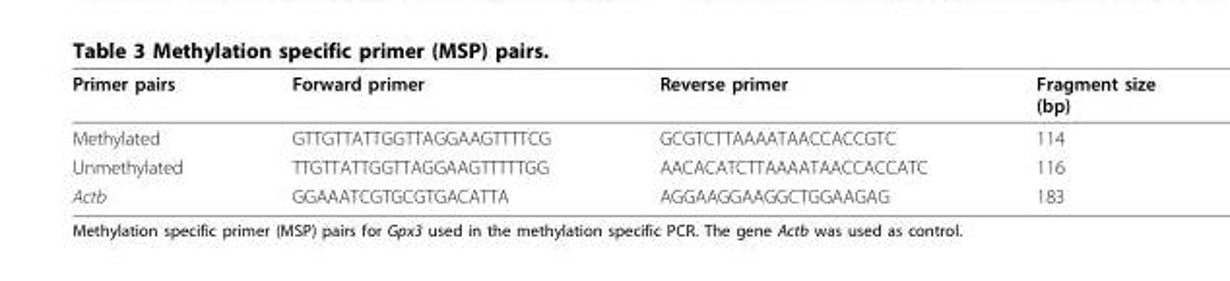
<table><thead><tr><td>Primer pairs</td><td>Forward primer</td><td>Reverse primer</td><td>Fragment size (bp)</td></tr></thead><tbody><tr><td>Methylated</td><td>GTTGTTATTGGTTAGGAAGTTTTCG</td><td>GCGTCTTAAAATAACCACCGTC</td><td>114</td></tr><tr><td>Unmethylated</td><td>TTGTTATTGGTTAGGAAGTTTTTGG</td><td>AACACATCTTAAAATAACCACCATC</td><td>116</td></tr><tr><td>Actb</td><td>GGAAATCGTGCGTGACATTA</td><td>AGGAAGGAAGGCTGGAAGAG</td><td>183</td></tr></tbody></table>